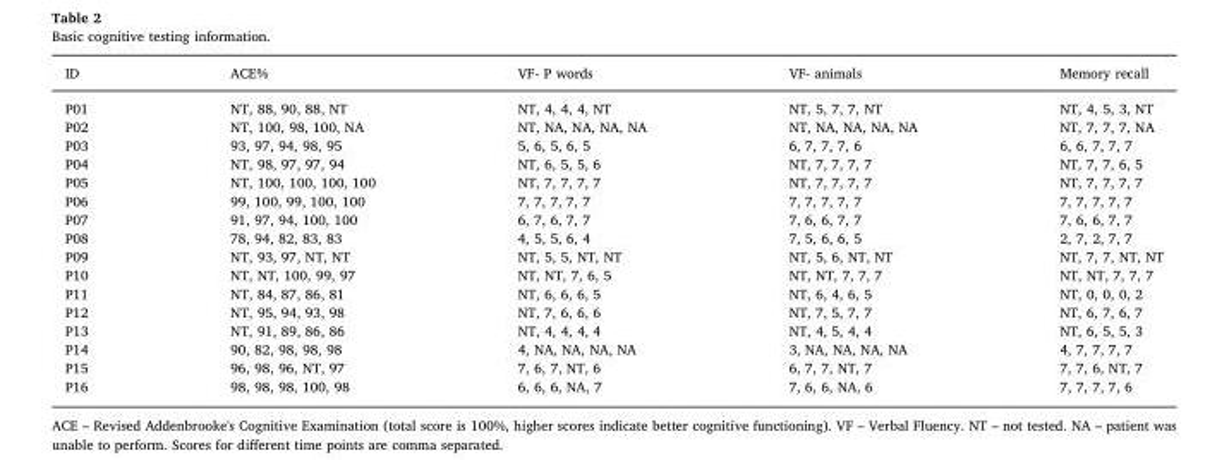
<table><thead><tr><td>ID</td><td>ACE%</td><td>VF- P words</td><td>VF- animals</td><td>Memory recall</td></tr></thead><tbody><tr><td>P01</td><td>NT, 88, 90, 88, NT</td><td>NT, 4, 4, 4, NT</td><td>NT, 5, 7, 7, NT</td><td>NT, 4, 5, 3, NT</td></tr><tr><td>P02</td><td>NT, 100, 98, 100, NA</td><td>NT, NA, NA, NA, NA</td><td>NT, NA, NA, NA, NA</td><td>NT, 7, 7, 7, NA</td></tr><tr><td>P03</td><td>93, 97, 94, 98, 95</td><td>5, 6, 5, 6, 5</td><td>6, 7, 7, 7, 6</td><td>6, 6, 7, 7, 7</td></tr><tr><td>P04</td><td>NT, 98, 97, 97, 94</td><td>NT, 6, 5, 5, 6</td><td>NT, 7, 7, 7, 7</td><td>NT, 7, 7, 6, 5</td></tr><tr><td>P05</td><td>NT, 100, 100, 100, 100</td><td>NT, 7, 7, 7, 7</td><td>NT, 7, 7, 7, 7</td><td>NT, 7, 7, 7, 7</td></tr><tr><td>P06</td><td>99, 100, 99, 100, 100</td><td>7, 7, 7, 7, 7</td><td>7, 7, 7, 7, 7</td><td>7, 7, 7, 7, 7</td></tr><tr><td>P07</td><td>91, 97, 94, 100, 100</td><td>6, 7, 6, 7, 7</td><td>7, 6, 6, 7, 7</td><td>7, 6, 6, 7, 7</td></tr><tr><td>P08</td><td>78, 94, 82, 83, 83</td><td>4, 5, 5, 6, 4</td><td>7, 5, 6, 6, 5</td><td>2, 7, 2, 7, 7</td></tr><tr><td>P09</td><td>NT, 93, 97, NT, NT</td><td>NT, 5, 5, NT, NT</td><td>NT, 5, 6, NT, NT</td><td>NT, 7, 7, NT, NT</td></tr><tr><td>P10</td><td>NT, NT, 100, 99, 97</td><td>NT, NT, 7, 6, 5</td><td>NT, NT, 7, 7, 7</td><td>NT, NT, 7, 7, 7</td></tr><tr><td>P11</td><td>NT, 84, 87, 86, 81</td><td>NT, 6, 6, 6, 5</td><td>NT, 6, 4, 6, 5</td><td>NT, 0, 0, 0, 2</td></tr><tr><td>P12</td><td>NT, 95, 94, 93, 98</td><td>NT, 7, 6, 6, 6</td><td>NT, 7, 5, 7, 7</td><td>NT, 6, 7, 6, 7</td></tr><tr><td>P13</td><td>NT, 91, 89, 86, 86</td><td>NT, 4, 4, 4, 4</td><td>NT, 4, 5, 4, 4</td><td>NT, 6, 5, 5, 3</td></tr><tr><td>P14</td><td>90, 82, 98, 98, 98</td><td>4, NA, NA, NA, NA</td><td>3, NA, NA, NA, NA</td><td>4, 7, 7, 7, 7</td></tr><tr><td>P15</td><td>96, 98, 96, NT, 97</td><td>7, 6, 7, NT, 6</td><td>6, 7, 7, NT, 7</td><td>7, 7, 6, NT, 7</td></tr><tr><td>P16</td><td>98, 98, 98, 100, 98</td><td>6, 6, 6, NA, 7</td><td>7, 6, 6, NA, 6</td><td>7, 7, 7, 7, 6</td></tr></tbody></table>